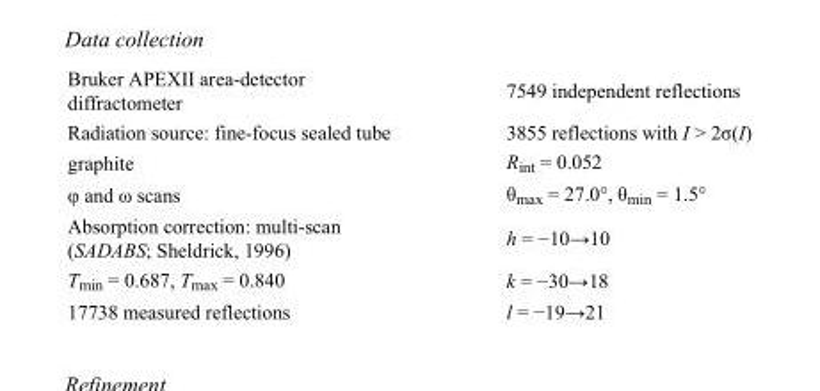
<table><tbody><tr><td>Bruker APEXII area-detector diffractometer</td><td>7549 independent reflections</td></tr><tr><td>Radiation source: fine-focus sealed tube</td><td>3855 reflections with I &gt; 2σ(I)</td></tr><tr><td>graphite</td><td>R<sub>int</sub> = 0.052</td></tr><tr><td>φ and ω scans</td><td>θ<sub>max</sub> = 27.0°, θ<sub>min</sub> = 1.5°</td></tr><tr><td>Absorption correction: multi-scan (SADABS; Sheldrick, 1996)</td><td>h = −10→10</td></tr><tr><td>T<sub>min</sub> = 0.687, T<sub>max</sub> = 0.840</td><td>k = −30→18</td></tr><tr><td>17738 measured reflections</td><td>l = −19→21</td></tr></tbody></table>